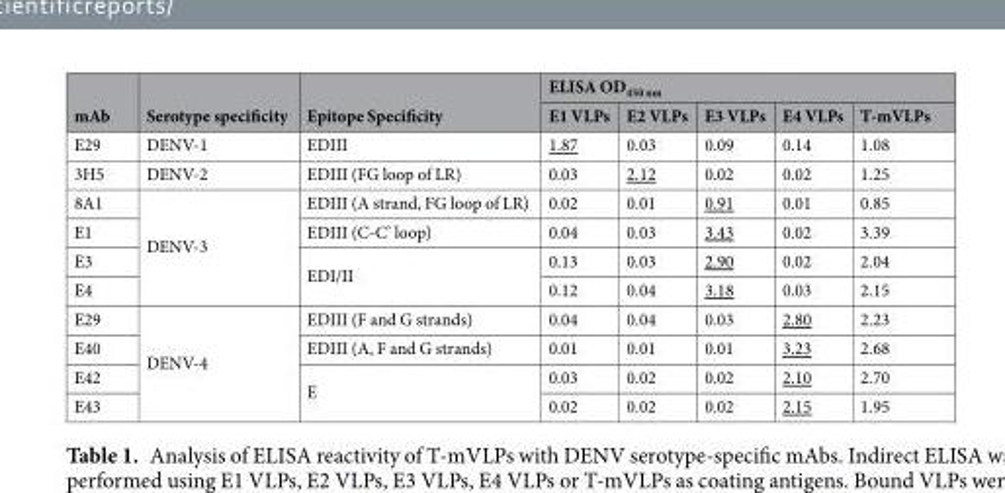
<table><thead><tr><td rowspan="2">mAb</td><td rowspan="2">Serotype specificity</td><td rowspan="2">Epitope Specificity</td><td colspan="5">ELISA OD<sub>450 nm</sub></td></tr><tr><td>E1 VLPs</td><td>E2 VLPs</td><td>E3 VLPs</td><td>E4 VLPs</td><td>T-mVLPs</td></tr></thead><tbody><tr><td>E29</td><td>DENV-1</td><td>EDIII</td><td>1.87</td><td>0.03</td><td>0.09</td><td>0.14</td><td>1.08</td></tr><tr><td>3H5</td><td>DENV-2</td><td>EDIII (FG loop of LR)</td><td>0.03</td><td>2.12</td><td>0.02</td><td>0.02</td><td>1.25</td></tr><tr><td>8A1</td><td rowspan="4">DENV-3</td><td>EDIII (A strand, FG loop of LR)</td><td>0.02</td><td>0.01</td><td>0.91</td><td>0.01</td><td>0.85</td></tr><tr><td>E1</td><td>EDIII (C-C’ loop)</td><td>0.04</td><td>0.03</td><td>3.43</td><td>0.02</td><td>3.39</td></tr><tr><td>E3</td><td rowspan="2">EDI/II</td><td>0.13</td><td>0.03</td><td>2.90</td><td>0.02</td><td>2.04</td></tr><tr><td>E4</td><td>0.12</td><td>0.04</td><td>3.18</td><td>0.03</td><td>2.15</td></tr><tr><td>E29</td><td rowspan="4">DENV-4</td><td>EDIII (F and G strands)</td><td>0.04</td><td>0.04</td><td>0.03</td><td>2.80</td><td>2.23</td></tr><tr><td>E40</td><td>EDIII (A, F and G strands)</td><td>0.01</td><td>0.01</td><td>0.01</td><td>3.23</td><td>2.68</td></tr><tr><td>E42</td><td rowspan="2">E</td><td>0.03</td><td>0.02</td><td>0.02</td><td>2.10</td><td>2.70</td></tr><tr><td>E43</td><td>0.02</td><td>0.02</td><td>0.02</td><td>2.15</td><td>1.95</td></tr></tbody></table>